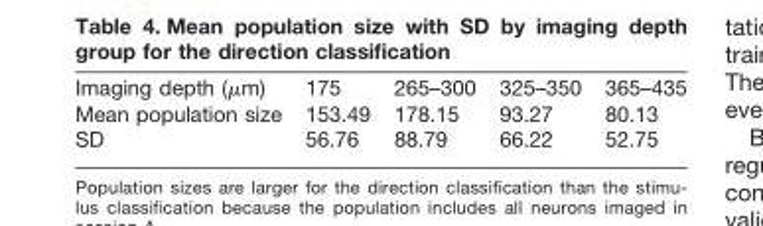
<table><tbody><tr><td>Imaging depth (µm)</td><td>175</td><td>265–300</td><td>325–350</td><td>365–435</td></tr><tr><td>Mean population size</td><td>153.49</td><td>178.15</td><td>93.27</td><td>80.13</td></tr><tr><td>SD</td><td>56.76</td><td>88.79</td><td>66.22</td><td>52.75</td></tr></tbody></table>